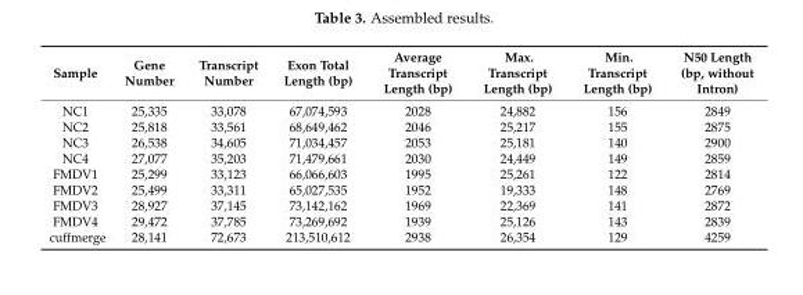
<table><thead><tr><td>Sample</td><td>Gene Number</td><td>Transcript Number</td><td>Exon Total Length (bp)</td><td>Average Transcript Length (bp)</td><td>Max. Transcript Length (bp)</td><td>Min. Transcript Length (bp)</td><td>N50 Length (bp, without Intron)</td></tr></thead><tbody><tr><td>NC1</td><td>25,335</td><td>33,078</td><td>67,074,593</td><td>2028</td><td>24,882</td><td>156</td><td>2849</td></tr><tr><td>NC2</td><td>25,818</td><td>33,561</td><td>68,649,462</td><td>2046</td><td>25,217</td><td>155</td><td>2875</td></tr><tr><td>NC3</td><td>26,538</td><td>34,605</td><td>71,034,457</td><td>2053</td><td>25,181</td><td>140</td><td>2900</td></tr><tr><td>NC4</td><td>27,077</td><td>35,203</td><td>71,479,661</td><td>2030</td><td>24,449</td><td>149</td><td>2859</td></tr><tr><td>FMDV1</td><td>25,299</td><td>33,123</td><td>66,066,603</td><td>1995</td><td>25,261</td><td>122</td><td>2814</td></tr><tr><td>FMDV2</td><td>25,499</td><td>33,311</td><td>65,027,535</td><td>1952</td><td>19,333</td><td>148</td><td>2769</td></tr><tr><td>FMDV3</td><td>28,927</td><td>37,145</td><td>73,142,162</td><td>1969</td><td>22,369</td><td>141</td><td>2872</td></tr><tr><td>FMDV4</td><td>29,472</td><td>37,785</td><td>73,269,692</td><td>1939</td><td>25,126</td><td>143</td><td>2839</td></tr><tr><td>cuffmerge</td><td>28,141</td><td>72,673</td><td>213,510,612</td><td>2938</td><td>26,354</td><td>129</td><td>4259</td></tr></tbody></table>